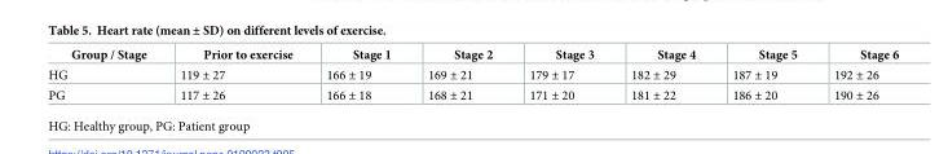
<table><thead><tr><td>Group / Stage</td><td>Prior to exercise</td><td>Stage 1</td><td>Stage 2</td><td>Stage 3</td><td>Stage 4</td><td>Stage 5</td><td>Stage 6</td></tr></thead><tbody><tr><td>HG</td><td>119 ± 27</td><td>166 ± 19</td><td>169 ± 21</td><td>179 ± 17</td><td>182 ± 29</td><td>187 ± 19</td><td>192 ± 26</td></tr><tr><td>PG</td><td>117 ± 26</td><td>166 ± 18</td><td>168 ± 21</td><td>171 ± 20</td><td>181 ± 22</td><td>186 ± 20</td><td>190 ± 26</td></tr></tbody></table>